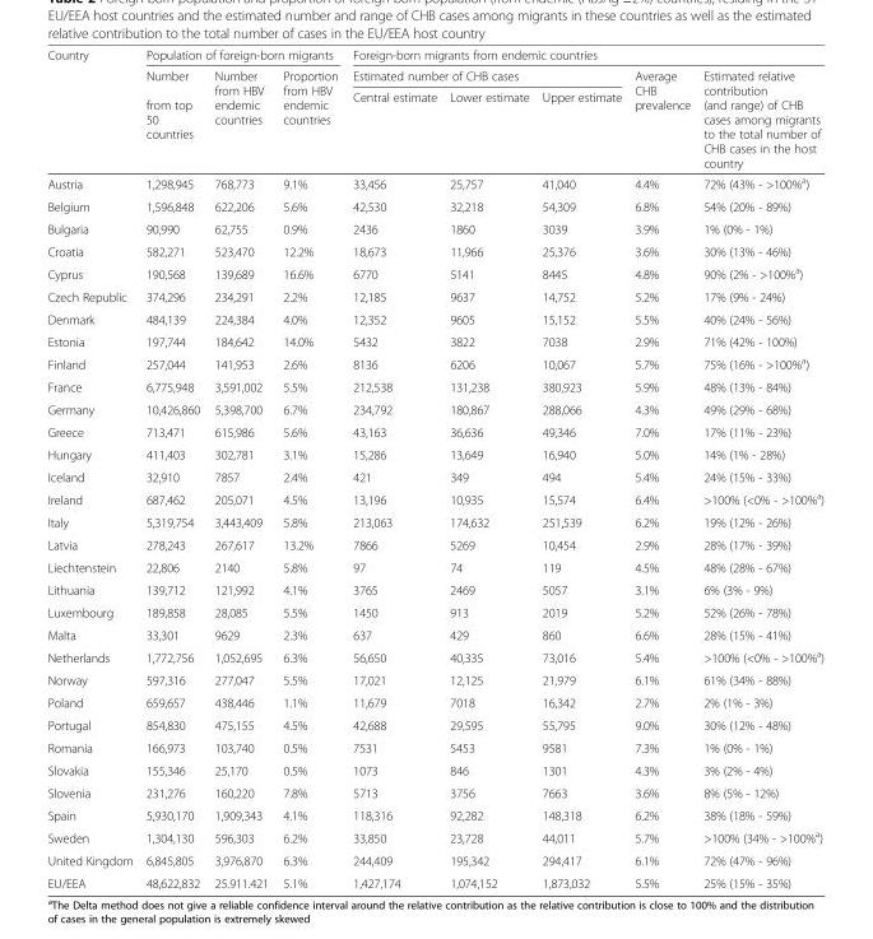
<table><thead><tr><td rowspan="3">Country</td><td colspan="3">Population of foreign-born migrants</td><td colspan="5">Foreign-born migrants from endemic countries</td></tr><tr><td rowspan="2">Number from top 50 countries</td><td rowspan="2">Number from HBV endemic countries</td><td rowspan="2">Proportion from HBV endemic countries</td><td colspan="3">Estimated number of CHB cases</td><td rowspan="2">Average CHB prevalence</td><td rowspan="2">Estimated relative contribution (and range) of CHB cases among migrants to the total number of CHB cases in the host country</td></tr><tr><td>Central estimate</td><td>Lower estimate</td><td>Upper estimate</td></tr></thead><tbody><tr><td>Austria</td><td>1,298,945</td><td>768,773</td><td>9.1%</td><td>33,456</td><td>25,757</td><td>41,040</td><td>4.4%</td><td>72% (43% - &gt;100%<sup>a</sup>)</td></tr><tr><td>Belgium</td><td>1,596,848</td><td>622,206</td><td>5.6%</td><td>42,530</td><td>32,218</td><td>54,309</td><td>6.8%</td><td>54% (20% - 89%)</td></tr><tr><td>Bulgaria</td><td>90,990</td><td>62,755</td><td>0.9%</td><td>2436</td><td>1860</td><td>3039</td><td>3.9%</td><td>1% (0% - 1%)</td></tr><tr><td>Croatia</td><td>582,271</td><td>523,470</td><td>12.2%</td><td>18,673</td><td>11,966</td><td>25,376</td><td>3.6%</td><td>30% (13% - 46%)</td></tr><tr><td>Cyprus</td><td>190,568</td><td>139,689</td><td>16.6%</td><td>6770</td><td>5141</td><td>8445</td><td>4.8%</td><td>90% (2% - &gt;100%<sup>a</sup>)</td></tr><tr><td>Czech Republic</td><td>374,296</td><td>234,291</td><td>2.2%</td><td>12,185</td><td>9637</td><td>14,752</td><td>5.2%</td><td>17% (9% - 24%)</td></tr><tr><td>Denmark</td><td>484,139</td><td>224,384</td><td>4.0%</td><td>12,352</td><td>9605</td><td>15,152</td><td>5.5%</td><td>40% (24% - 56%)</td></tr><tr><td>Estonia</td><td>197,744</td><td>184,642</td><td>14.0%</td><td>5432</td><td>3822</td><td>7038</td><td>2.9%</td><td>71% (42% - 100%)</td></tr><tr><td>Finland</td><td>257,044</td><td>141,953</td><td>2.6%</td><td>8136</td><td>6206</td><td>10,067</td><td>5.7%</td><td>75% (16% - &gt;100%<sup>a</sup>)</td></tr><tr><td>France</td><td>6,775,948</td><td>3,591,002</td><td>5.5%</td><td>212,538</td><td>131,238</td><td>380,923</td><td>5.9%</td><td>48% (13% - 84%)</td></tr><tr><td>Germany</td><td>10,426,860</td><td>5,398,700</td><td>6.7%</td><td>234,792</td><td>180,867</td><td>288,066</td><td>4.3%</td><td>49% (29% - 68%)</td></tr><tr><td>Greece</td><td>713,471</td><td>615,986</td><td>5.6%</td><td>43,163</td><td>36,636</td><td>49,346</td><td>7.0%</td><td>17% (11% - 23%)</td></tr><tr><td>Hungary</td><td>411,403</td><td>302,781</td><td>3.1%</td><td>15,286</td><td>13,649</td><td>16,940</td><td>5.0%</td><td>14% (1% - 28%)</td></tr><tr><td>Iceland</td><td>32,910</td><td>7857</td><td>2.4%</td><td>421</td><td>349</td><td>494</td><td>5.4%</td><td>24% (15% - 33%)</td></tr><tr><td>Ireland</td><td>687,462</td><td>205,071</td><td>4.5%</td><td>13,196</td><td>10,935</td><td>15,574</td><td>6.4%</td><td>&gt;100% (&lt;0% - &gt;100%<sup>a</sup>)</td></tr><tr><td>Italy</td><td>5,319,754</td><td>3,443,409</td><td>5.8%</td><td>213,063</td><td>174,632</td><td>251,539</td><td>6.2%</td><td>19% (12% - 26%)</td></tr><tr><td>Latvia</td><td>278,243</td><td>267,617</td><td>13.2%</td><td>7866</td><td>5269</td><td>10,454</td><td>2.9%</td><td>28% (17% - 39%)</td></tr><tr><td>Liechtenstein</td><td>22,806</td><td>2140</td><td>5.8%</td><td>97</td><td>74</td><td>119</td><td>4.5%</td><td>48% (28% - 67%)</td></tr><tr><td>Lithuania</td><td>139,712</td><td>121,992</td><td>4.1%</td><td>3765</td><td>2469</td><td>5057</td><td>3.1%</td><td>6% (3% - 9%)</td></tr><tr><td>Luxembourg</td><td>189,858</td><td>28,085</td><td>5.5%</td><td>1450</td><td>913</td><td>2019</td><td>5.2%</td><td>52% (26% - 78%)</td></tr><tr><td>Malta</td><td>33,301</td><td>9629</td><td>2.3%</td><td>637</td><td>429</td><td>860</td><td>6.6%</td><td>28% (15% - 41%)</td></tr><tr><td>Netherlands</td><td>1,772,756</td><td>1,052,695</td><td>6.3%</td><td>56,650</td><td>40,335</td><td>73,016</td><td>5.4%</td><td>&gt;100% (&lt;0% - &gt;100%<sup>a</sup>)</td></tr><tr><td>Norway</td><td>597,316</td><td>277,047</td><td>5.5%</td><td>17,021</td><td>12,125</td><td>21,979</td><td>6.1%</td><td>61% (34% - 88%)</td></tr><tr><td>Poland</td><td>659,657</td><td>438,446</td><td>1.1%</td><td>11,679</td><td>7018</td><td>16,342</td><td>2.7%</td><td>2% (1% - 3%)</td></tr><tr><td>Portugal</td><td>854,830</td><td>475,155</td><td>4.5%</td><td>42,688</td><td>29,595</td><td>55,795</td><td>9.0%</td><td>30% (12% - 48%)</td></tr><tr><td>Romania</td><td>166,973</td><td>103,740</td><td>0.5%</td><td>7531</td><td>5453</td><td>9581</td><td>7.3%</td><td>1% (0% - 1%)</td></tr><tr><td>Slovakia</td><td>155,346</td><td>25,170</td><td>0.5%</td><td>1073</td><td>846</td><td>1301</td><td>4.3%</td><td>3% (2% - 4%)</td></tr><tr><td>Slovenia</td><td>231,276</td><td>160,220</td><td>7.8%</td><td>5713</td><td>3756</td><td>7663</td><td>3.6%</td><td>8% (5% - 12%)</td></tr><tr><td>Spain</td><td>5,930,170</td><td>1,909,343</td><td>4.1%</td><td>118,316</td><td>92,282</td><td>148,318</td><td>6.2%</td><td>38% (18% - 59%)</td></tr><tr><td>Sweden</td><td>1,304,130</td><td>596,303</td><td>6.2%</td><td>33,850</td><td>23,728</td><td>44,011</td><td>5.7%</td><td>&gt;100% (34% - &gt;100%<sup>a</sup>)</td></tr><tr><td>United Kingdom</td><td>6,845,805</td><td>3,976,870</td><td>6.3%</td><td>244,409</td><td>195,342</td><td>294,417</td><td>6.1%</td><td>72% (47% - 96%)</td></tr><tr><td>EU/EEA</td><td>48,622,832</td><td>25.911.421</td><td>5.1%</td><td>1,427,174</td><td>1,074,152</td><td>1,873,032</td><td>5.5%</td><td>25% (15% - 35%)</td></tr></tbody></table>